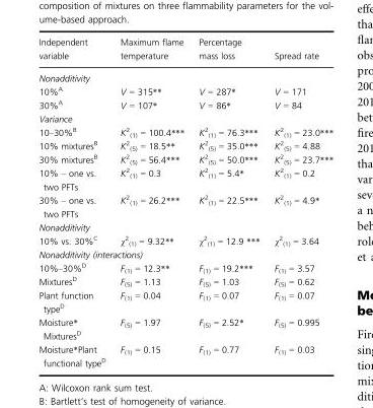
<table><thead><tr><td>Independent variable</td><td>Maximum flame temperature</td><td>Percentage mass loss</td><td>Spread rate</td></tr></thead><tbody><tr><td colspan="4">Nonadditivity</td></tr><tr><td>10%<sup>A</sup></td><td>V = 315**</td><td>V = 287*</td><td>V = 171</td></tr><tr><td>30%<sup>A</sup></td><td>V = 107*</td><td>V = 86*</td><td>V = 84</td></tr><tr><td colspan="4">Variance</td></tr><tr><td>10–30%<sup>B</sup></td><td>K<sup>2</sup> <sub>(1)</sub> = 100.4***</td><td>K<sup>2</sup> <sub>(1)</sub> = 76.3***</td><td>K<sup>2</sup> <sub>(1)</sub> = 23.0***</td></tr><tr><td>10% mixtures<sup>B</sup></td><td>K<sup>2</sup> <sub>(5)</sub> = 18.5**</td><td>K<sup>2</sup> <sub>(5)</sub> = 35.0***</td><td>K<sup>2</sup> <sub>(5)</sub> = 4.88</td></tr><tr><td>30% mixtures<sup>B</sup></td><td>K<sup>2</sup> <sub>(5)</sub> = 56.4***</td><td>K<sup>2</sup> <sub>(5)</sub> = 50.0***</td><td>K<sup>2</sup> <sub>(5)</sub> = 23.7***</td></tr><tr><td>10% – one vs. two PFTs</td><td>K<sup>2</sup> <sub>(1)</sub> = 0.3</td><td>K<sup>2</sup> <sub>(1)</sub> = 5.4*</td><td>K<sup>2</sup> <sub>(1)</sub> = 0.2</td></tr><tr><td>30% – one vs. two PFTs</td><td>K<sup>2</sup> <sub>(1)</sub> = 26.2***</td><td>K<sup>2</sup> <sub>(1)</sub> = 22.5***</td><td>K<sup>2</sup> <sub>(1)</sub> = 4.9*</td></tr><tr><td colspan="4">Nonadditivity</td></tr><tr><td>10% vs. 30%<sup>C</sup></td><td>χ<sup>2</sup> <sub>(1)</sub> = 9.32**</td><td>χ<sup>2</sup> <sub>(1)</sub> = 12.9 ***</td><td>χ<sup>2</sup> <sub>(1)</sub> = 3.64</td></tr><tr><td colspan="4">Nonadditivity (interactions)</td></tr><tr><td>10%–30%<sup>D</sup></td><td>F<sub>(1)</sub> = 12.3**</td><td>F<sub>(1)</sub> = 19.2***</td><td>F<sub>(1)</sub> = 3.57</td></tr><tr><td>MixturesD</td><td>F<sub>(5)</sub> = 1.13</td><td>F<sub>(5)</sub> = 1.03</td><td>F<sub>(5)</sub> = 0.62</td></tr><tr><td>Plant function type<sup>D</sup></td><td>F<sub>(1)</sub> = 0.04</td><td>F<sub>(1)</sub> = 0.07</td><td>F<sub>(1)</sub> = 0.07</td></tr><tr><td>Moisture* Mixtures<sup>D</sup></td><td>F<sub>(5)</sub> = 1.97</td><td>F<sub>(5)</sub> = 2.52*</td><td>F<sub>(5)</sub> = 0.995</td></tr><tr><td>Moisture*Plant functional type<sup>D</sup></td><td>F<sub>(1)</sub> = 0.15</td><td>F<sub>(1)</sub> = 0.77</td><td>F<sub>(1)</sub> = 0.03</td></tr></tbody></table>